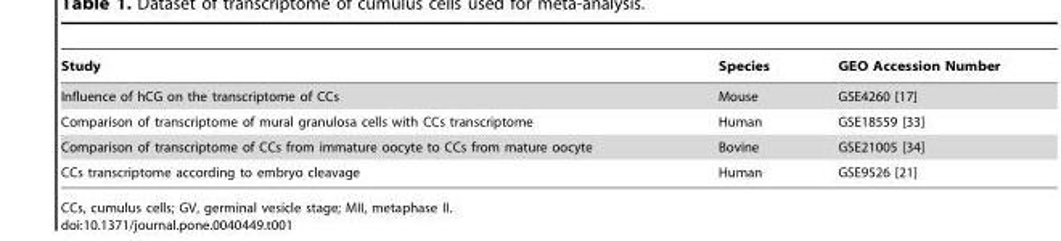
<table><thead><tr><td>Study</td><td>Species</td><td>GEO Accession Number</td></tr></thead><tbody><tr><td>Influence of hCG on the transcriptome of CCs</td><td>Mouse</td><td>GSE4260 [17]</td></tr><tr><td>Comparison of transcriptome of mural granulosa cells with CCs transcriptome</td><td>Human</td><td>GSE18559 [33]</td></tr><tr><td>Comparison of transcriptome of CCs from immature oocyte to CCs from mature oocyte</td><td>Bovine</td><td>GSE21005 [34]</td></tr><tr><td>CCs transcriptome according to embryo cleavage</td><td>Human</td><td>GSE9526 [21]</td></tr></tbody></table>